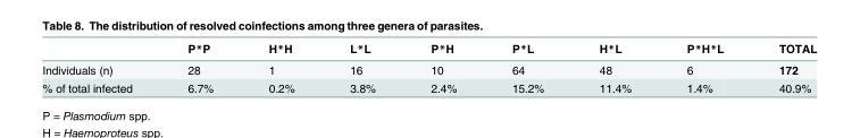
<table><thead><tr><td></td><td>P*P</td><td>H*H</td><td>L*L</td><td>P*H</td><td>P*L</td><td>H*L</td><td>P*H*L</td><td>TOTAL</td></tr></thead><tbody><tr><td>Individuals (n)</td><td>28</td><td>1</td><td>16</td><td>10</td><td>64</td><td>48</td><td>6</td><td>172</td></tr><tr><td>% of total infected</td><td>6.7%</td><td>0.2%</td><td>3.8%</td><td>2.4%</td><td>15.2%</td><td>11.4%</td><td>1.4%</td><td>40.9%</td></tr></tbody></table>